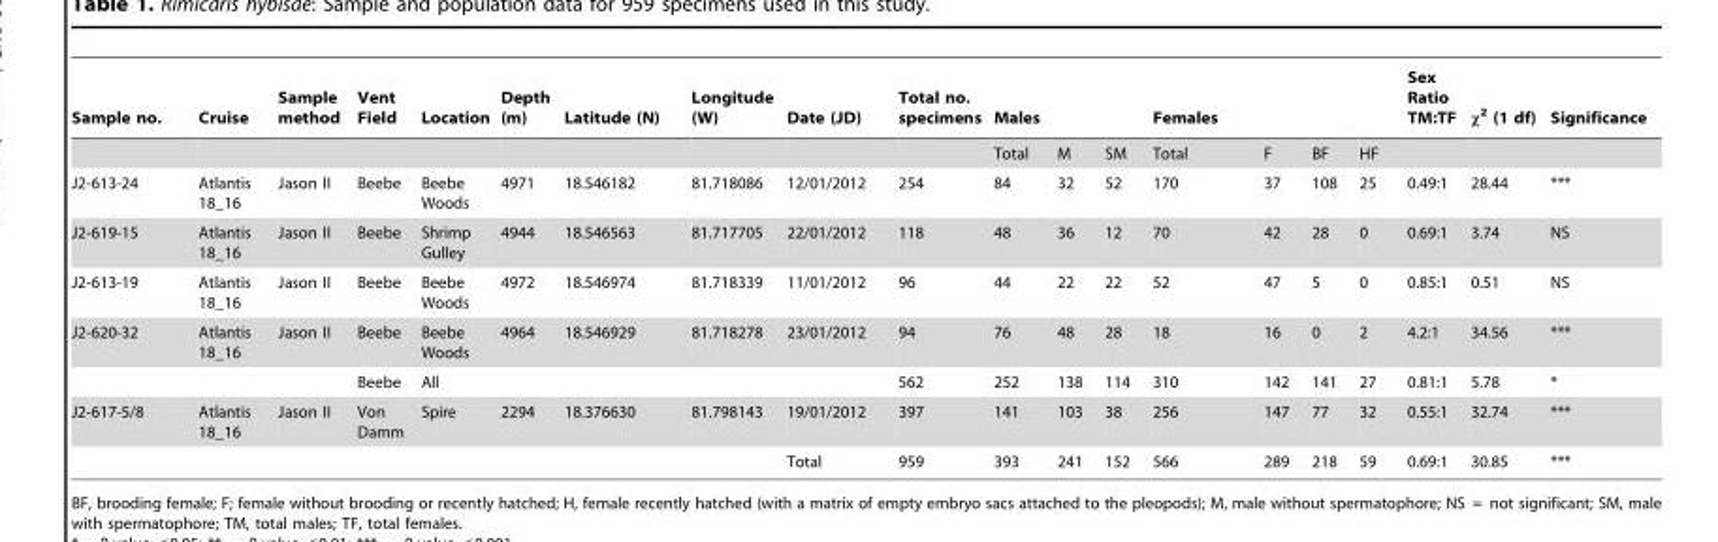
<table><thead><tr><td>Sample no.</td><td>Cruise</td><td>Sample method</td><td>Vent Field</td><td>Location</td><td>Depth (m)</td><td>Latitude (N)</td><td>Longitude (W)</td><td>Date (JD)</td><td>Total no. specimens</td><td>Males</td><td></td><td></td><td>Females</td><td></td><td></td><td></td><td>Sex Ratio TM:TF</td><td>χ<sup>2</sup> (1 df)</td><td>Significance</td></tr></thead><tbody><tr><td></td><td></td><td></td><td></td><td></td><td></td><td></td><td></td><td></td><td></td><td>Total</td><td>M</td><td>SM</td><td>Total</td><td>F</td><td>BF</td><td>HF</td><td></td><td></td><td></td></tr><tr><td>J2-613-24</td><td>Atlantis 18_16</td><td>Jason II</td><td>Beebe</td><td>Beebe Woods</td><td>4971</td><td>18.546182</td><td>81.718086</td><td>12/01/2012</td><td>254</td><td>84</td><td>32</td><td>52</td><td>170</td><td>37</td><td>108</td><td>25</td><td>0.49:1</td><td>28.44</td><td>***</td></tr><tr><td>J2-619-15</td><td>Atlantis 18_16</td><td>Jason II</td><td>Beebe</td><td>Shrimp Gulley</td><td>4944</td><td>18.546563</td><td>81.717705</td><td>22/01/2012</td><td>118</td><td>48</td><td>36</td><td>12</td><td>70</td><td>42</td><td>28</td><td>0</td><td>0.69:1</td><td>3.74</td><td>NS</td></tr><tr><td>J2-613-19</td><td>Atlantis 18_16</td><td>Jason II</td><td>Beebe</td><td>Beebe Woods</td><td>4972</td><td>18.546974</td><td>81.718339</td><td>11/01/2012</td><td>96</td><td>44</td><td>22</td><td>22</td><td>52</td><td>47</td><td>5</td><td>0</td><td>0.85:1</td><td>0.51</td><td>NS</td></tr><tr><td rowspan="2">J2-620-32</td><td>Atlantis 18_16</td><td>Jason II</td><td>Beebe</td><td>Beebe Woods</td><td>4964</td><td>18.546929</td><td>81.718278</td><td>23/01/2012</td><td>94</td><td>76</td><td>48</td><td>28</td><td>18</td><td>16</td><td>0</td><td>2</td><td>4.2:1</td><td>34.56</td><td>***</td></tr><tr><td></td><td></td><td>Beebe</td><td>All</td><td></td><td></td><td></td><td></td><td>562</td><td>252</td><td>138</td><td>114</td><td>310</td><td>142</td><td>141</td><td>27</td><td>0.81:1</td><td>5.78</td><td>*</td></tr><tr><td rowspan="2">J2-617-5/8</td><td>Atlantis 18_16</td><td>Jason II</td><td>Von Damm</td><td>Spire</td><td>2294</td><td>18.376630</td><td>81.798143</td><td>19/01/2012</td><td>397</td><td>141</td><td>103</td><td>38</td><td>256</td><td>147</td><td>77</td><td>32</td><td>0.55:1</td><td>32.74</td><td>***</td></tr><tr><td></td><td></td><td></td><td></td><td></td><td></td><td></td><td>Total</td><td>959</td><td>393</td><td>241</td><td>152</td><td>566</td><td>289</td><td>218</td><td>59</td><td>0.69:1</td><td>30.85</td><td>***</td></tr></tbody></table>